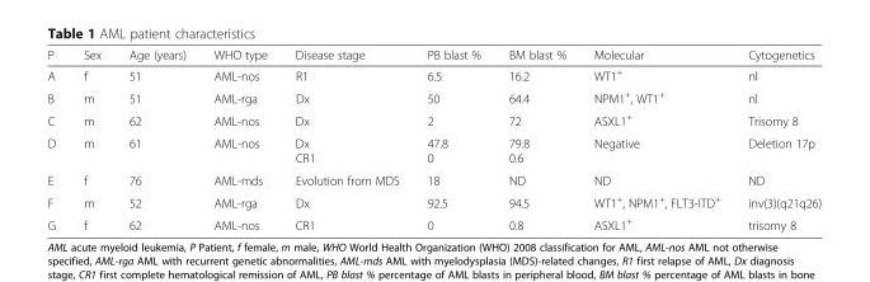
<table><thead><tr><td>P</td><td>Sex</td><td>Age (years)</td><td>WHO type</td><td>Disease stage</td><td>PB blast %</td><td>BM blast %</td><td>Molecular</td><td>Cytogenetics</td></tr></thead><tbody><tr><td>A</td><td>f</td><td>51</td><td>AML-nos</td><td>R1</td><td>6.5</td><td>16.2</td><td>WT1<sup>+</sup></td><td>nl</td></tr><tr><td>B</td><td>m</td><td>51</td><td>AML-rga</td><td>Dx</td><td>50</td><td>64.4</td><td>NPM1<sup>+</sup>, WT1<sup>+</sup></td><td>nl</td></tr><tr><td>C</td><td>m</td><td>62</td><td>AML-nos</td><td>Dx</td><td>2</td><td>72</td><td>ASXL1<sup>+</sup></td><td>Trisomy 8</td></tr><tr><td>D</td><td>m</td><td>61</td><td>AML-nos</td><td>Dx CR1</td><td>47.8 0</td><td>79.8 0.6</td><td>Negative</td><td>Deletion 17p</td></tr><tr><td>E</td><td>f</td><td>76</td><td>AML-mds</td><td>Evolution from MDS</td><td>18</td><td>ND</td><td>ND</td><td>ND</td></tr><tr><td>F</td><td>m</td><td>52</td><td>AML-rga</td><td>Dx</td><td>92.5</td><td>94.5</td><td>WT1<sup>+</sup>, NPM1<sup>+</sup>, FLT3-ITD<sup>+</sup></td><td>inv(3)(q21q26)</td></tr><tr><td>G</td><td>f</td><td>62</td><td>AML-nos</td><td>CR1</td><td>0</td><td>0.8</td><td>ASXL1<sup>+</sup></td><td>trisomy 8</td></tr></tbody></table>